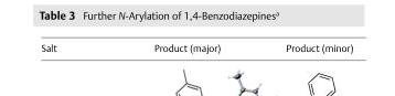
<table><thead><tr><td>Salt</td><td>Product (major)</td><td>Product (minor)</td></tr></thead><tbody></tbody></table>